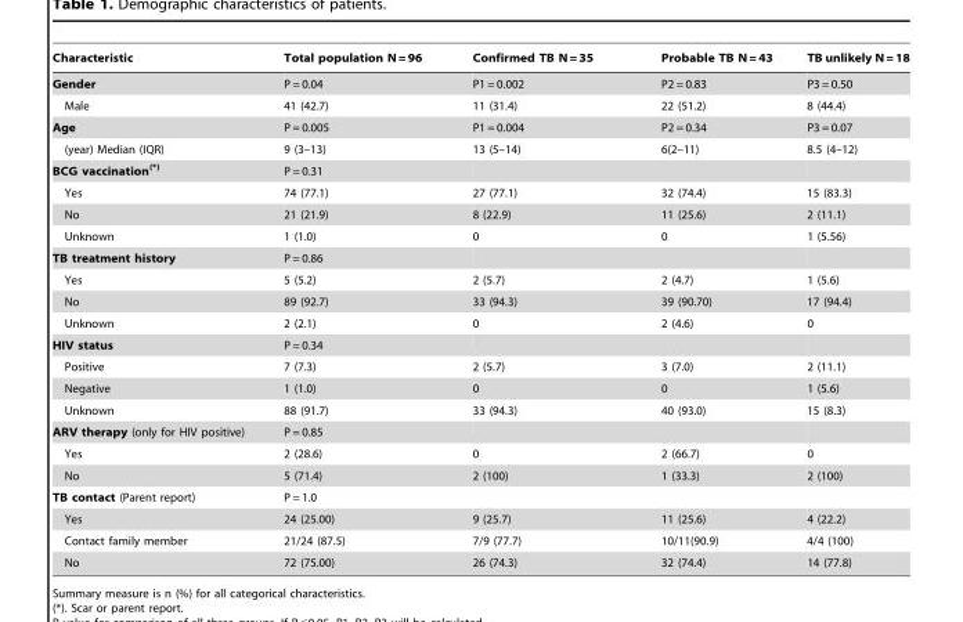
<table><thead><tr><td>Characteristic</td><td>Total population N = 96</td><td>Confirmed TB N = 35</td><td>Probable TB N = 43</td><td>TB unlikely N = 18</td></tr></thead><tbody><tr><td>Gender</td><td>P = 0.04</td><td>P1 = 0.002</td><td>P2 = 0.83</td><td>P3 = 0.50</td></tr><tr><td>Male</td><td>41 (42.7)</td><td>11 (31.4)</td><td>22 (51.2)</td><td>8 (44.4)</td></tr><tr><td>Age</td><td>P = 0.005</td><td>P1 = 0.004</td><td>P2 = 0.34</td><td>P3 = 0.07</td></tr><tr><td>(year) Median (IQR)</td><td>9 (3–13)</td><td>13 (5–14)</td><td>6(2–11)</td><td>8.5 (4–12)</td></tr><tr><td>BCG vaccination<sup>(*)</sup></td><td>P = 0.31</td><td></td><td></td><td></td></tr><tr><td>Yes</td><td>74 (77.1)</td><td>27 (77.1)</td><td>32 (74.4)</td><td>15 (83.3)</td></tr><tr><td>No</td><td>21 (21.9)</td><td>8 (22.9)</td><td>11 (25.6)</td><td>2 (11.1)</td></tr><tr><td>Unknown</td><td>1 (1.0)</td><td>0</td><td>0</td><td>1 (5.56)</td></tr><tr><td>TB treatment history</td><td>P = 0.86</td><td></td><td></td><td></td></tr><tr><td>Yes</td><td>5 (5.2)</td><td>2 (5.7)</td><td>2 (4.7)</td><td>1 (5.6)</td></tr><tr><td>No</td><td>89 (92.7)</td><td>33 (94.3)</td><td>39 (90.70)</td><td>17 (94.4)</td></tr><tr><td>Unknown</td><td>2 (2.1)</td><td>0</td><td>2 (4.6)</td><td>0</td></tr><tr><td>HIV status</td><td>P = 0.34</td><td></td><td></td><td></td></tr><tr><td>Positive</td><td>7 (7.3)</td><td>2 (5.7)</td><td>3 (7.0)</td><td>2 (11.1)</td></tr><tr><td>Negative</td><td>1 (1.0)</td><td>0</td><td>0</td><td>1 (5.6)</td></tr><tr><td>Unknown</td><td>88 (91.7)</td><td>33 (94.3)</td><td>40 (93.0)</td><td>15 (8.3)</td></tr><tr><td>ARV therapy (only for HIV positive)</td><td>P = 0.85</td><td></td><td></td><td></td></tr><tr><td>Yes</td><td>2 (28.6)</td><td>0</td><td>2 (66.7)</td><td>0</td></tr><tr><td>No</td><td>5 (71.4)</td><td>2 (100)</td><td>1 (33.3)</td><td>2 (100)</td></tr><tr><td>TB contact (Parent report)</td><td>P = 1.0</td><td></td><td></td><td></td></tr><tr><td>Yes</td><td>24 (25.00)</td><td>9 (25.7)</td><td>11 (25.6)</td><td>4 (22.2)</td></tr><tr><td>Contact family member</td><td>21/24 (87.5)</td><td>7/9 (77.7)</td><td>10/11(90.9)</td><td>4/4 (100)</td></tr><tr><td>No</td><td>72 (75.00)</td><td>26 (74.3)</td><td>32 (74.4)</td><td>14 (77.8)</td></tr></tbody></table>